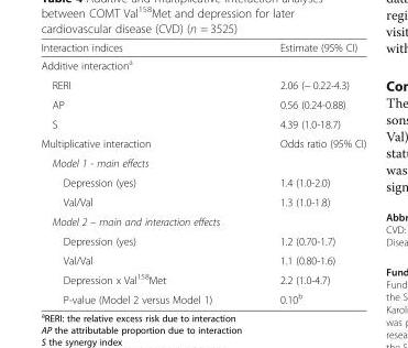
<table><thead><tr><td>Interaction indices</td><td>Estimate (95% CI)</td></tr></thead><tbody><tr><td colspan="2">Additive interaction<sup>a</sup></td></tr><tr><td>RERI</td><td>2.06 (− 0.22-4.3)</td></tr><tr><td>AP</td><td>0.56 (0.24-0.88)</td></tr><tr><td>S</td><td>4.39 (1.0-18.7)</td></tr><tr><td>Multiplicative interaction</td><td>Odds ratio (95% CI)</td></tr><tr><td colspan="2">Model 1 - main effects</td></tr><tr><td>Depression (yes)</td><td>1.4 (1.0-2.0)</td></tr><tr><td>Val/Val</td><td>1.3 (1.0-1.8)</td></tr><tr><td colspan="2">Model 2 – main and interaction effects</td></tr><tr><td>Depression (yes)</td><td>1.2 (0.70-1.7)</td></tr><tr><td>Val/Val</td><td>1.1 (0.80-1.6)</td></tr><tr><td>Depression x Val<sup>158</sup>Met</td><td>2.2 (1.0-4.7)</td></tr><tr><td>P-value (Model 2 versus Model 1)</td><td>0.10<sup>b</sup></td></tr></tbody></table>